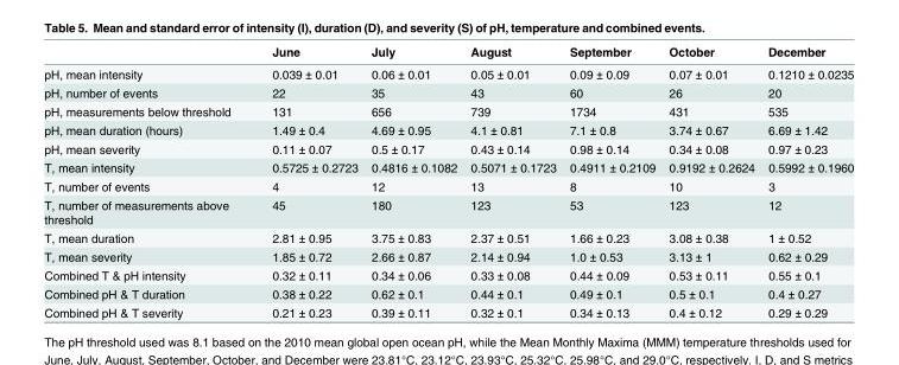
<table><thead><tr><td></td><td>June</td><td>July</td><td>August</td><td>September</td><td>October</td><td>December</td></tr></thead><tbody><tr><td>pH, mean intensity</td><td>0.039 ± 0.01</td><td>0.06 ± 0.01</td><td>0.05 ± 0.01</td><td>0.09 ± 0.09</td><td>0.07 ± 0.01</td><td>0.1210 ± 0.0235</td></tr><tr><td>pH, number of events</td><td>22</td><td>35</td><td>43</td><td>60</td><td>26</td><td>20</td></tr><tr><td>pH, measurements below threshold</td><td>131</td><td>656</td><td>739</td><td>1734</td><td>431</td><td>535</td></tr><tr><td>pH, mean duration (hours)</td><td>1.49 ± 0.4</td><td>4.69 ± 0.95</td><td>4.1 ± 0.81</td><td>7.1 ± 0.8</td><td>3.74 ± 0.67</td><td>6.69 ± 1.42</td></tr><tr><td>pH, mean severity</td><td>0.11 ± 0.07</td><td>0.5 ± 0.17</td><td>0.43 ± 0.14</td><td>0.98 ± 0.14</td><td>0.34 ± 0.08</td><td>0.97 ± 0.23</td></tr><tr><td>T, mean intensity</td><td>0.5725 ± 0.2723</td><td>0.4816 ± 0.1082</td><td>0.5071 ± 0.1723</td><td>0.4911 ± 0.2109</td><td>0.9192 ± 0.2624</td><td>0.5992 ± 0.1960</td></tr><tr><td>T, number of events</td><td>4</td><td>12</td><td>13</td><td>8</td><td>10</td><td>3</td></tr><tr><td>T, number of measurements above threshold</td><td>45</td><td>180</td><td>123</td><td>53</td><td>123</td><td>12</td></tr><tr><td>T, mean duration</td><td>2.81 ± 0.95</td><td>3.75 ± 0.83</td><td>2.37 ± 0.51</td><td>1.66 ± 0.23</td><td>3.08 ± 0.38</td><td>1 ± 0.52</td></tr><tr><td>T, mean severity</td><td>1.85 ± 0.72</td><td>2.66 ± 0.87</td><td>2.14 ± 0.94</td><td>1.0 ± 0.53</td><td>3.13 ± 1</td><td>0.62 ± 0.29</td></tr><tr><td>Combined T &amp; pH intensity</td><td>0.32 ± 0.11</td><td>0.34 ± 0.06</td><td>0.33 ± 0.08</td><td>0.44 ± 0.09</td><td>0.53 ± 0.11</td><td>0.55 ± 0.1</td></tr><tr><td>Combined pH &amp; T duration</td><td>0.38 ± 0.22</td><td>0.62 ± 0.1</td><td>0.44 ± 0.1</td><td>0.49 ± 0.1</td><td>0.5 ± 0.1</td><td>0.4 ± 0.27</td></tr><tr><td>Combined pH &amp; T severity</td><td>0.21 ± 0.23</td><td>0.39 ± 0.11</td><td>0.32 ± 0.1</td><td>0.34 ± 0.13</td><td>0.4 ± 0.12</td><td>0.29 ± 0.29</td></tr></tbody></table>